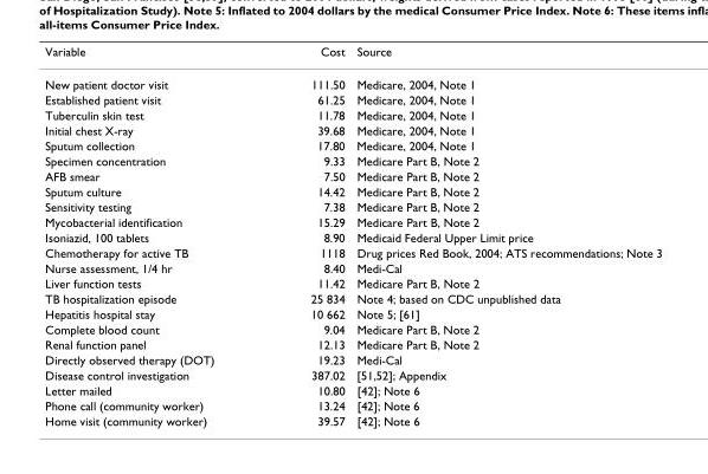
<table><thead><tr><td>Variable</td><td>Cost</td><td>Source</td></tr></thead><tbody><tr><td>New patient doctor visit</td><td>111.50</td><td>Medicare, 2004, Note 1</td></tr><tr><td>Established patient visit</td><td>61.25</td><td>Medicare, 2004, Note 1</td></tr><tr><td>Tuberculin skin test</td><td>11.78</td><td>Medicare, 2004, Note 1</td></tr><tr><td>Initial chest X-ray</td><td>39.68</td><td>Medicare, 2004, Note 1</td></tr><tr><td>Sputum collection</td><td>17.80</td><td>Medicare, 2004, Note 1</td></tr><tr><td>Specimen concentration</td><td>9.33</td><td>Medicare Part B, Note 2</td></tr><tr><td>AFB smear</td><td>7.50</td><td>Medicare Part B, Note 2</td></tr><tr><td>Sputum culture</td><td>14.42</td><td>Medicare Part B, Note 2</td></tr><tr><td>Sensitivity testing</td><td>7.38</td><td>Medicare Part B, Note 2</td></tr><tr><td>Mycobacterial identification</td><td>15.29</td><td>Medicare Part B, Note 2</td></tr><tr><td>Isoniazid, 100 tablets</td><td>8.90</td><td>Medicaid Federal Upper Limit price</td></tr><tr><td>Chemotherapy for active TB</td><td>1118</td><td>Drug prices Red Book, 2004; ATS recommendations; Note 3</td></tr><tr><td>Nurse assessment, 1/4 hr</td><td>8.40</td><td>Medi-Cal</td></tr><tr><td>Liver function tests</td><td>11.42</td><td>Medicare Part B, Note 2</td></tr><tr><td>TB hospitalization episode</td><td>25 834</td><td>Note 4; based on CDC unpublished data</td></tr><tr><td>Hepatitis hospital stay</td><td>10 662</td><td>Note 5; [61]</td></tr><tr><td>Complete blood count</td><td>9.04</td><td>Medicare Part B, Note 2</td></tr><tr><td>Renal function panel</td><td>12.13</td><td>Medicare Part B, Note 2</td></tr><tr><td>Directly observed therapy (DOT)</td><td>19.23</td><td>Medi-Cal</td></tr><tr><td>Disease control investigation</td><td>387.02</td><td>[51,52]; Appendix</td></tr><tr><td>Letter mailed</td><td>10.80</td><td>[42]; Note 6</td></tr><tr><td>Phone call (community worker)</td><td>13.24</td><td>[42]; Note 6</td></tr><tr><td>Home visit (community worker)</td><td>39.57</td><td>[42]; Note 6</td></tr></tbody></table>